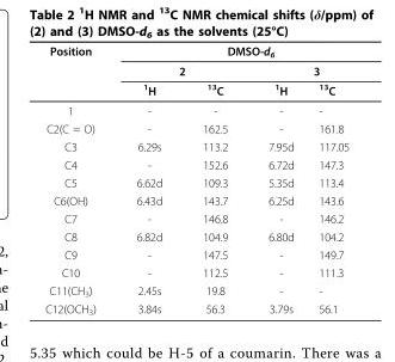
<table><thead><tr><td rowspan="3">Position</td><td colspan="4">DMSO-d<sub>6</sub></td></tr><tr><td colspan="2">2</td><td colspan="2">3</td></tr><tr><td><sup>1</sup>H</td><td><sup>13</sup>C</td><td><sup>1</sup>H</td><td><sup>13</sup>C</td></tr></thead><tbody><tr><td>1</td><td>-</td><td>-</td><td>-</td><td>-</td></tr><tr><td>C2(C = O)</td><td>-</td><td>162.5</td><td>-</td><td>161.8</td></tr><tr><td>C3</td><td>6.29s</td><td>113.2</td><td>7.95d</td><td>117.05</td></tr><tr><td>C4</td><td>-</td><td>152.6</td><td>6.72d</td><td>147.3</td></tr><tr><td>C5</td><td>6.62d</td><td>109.3</td><td>5.35d</td><td>113.4</td></tr><tr><td>C6(OH)</td><td>6.43d</td><td>143.7</td><td>6.25d</td><td>143.6</td></tr><tr><td>C7</td><td>-</td><td>146.8</td><td>-</td><td>146.2</td></tr><tr><td>C8</td><td>6.82d</td><td>104.9</td><td>6.80d</td><td>104.2</td></tr><tr><td>C9</td><td>-</td><td>147.5</td><td>-</td><td>149.7</td></tr><tr><td>C10</td><td>-</td><td>112.5</td><td>-</td><td>111.3</td></tr><tr><td>C11(CH<sub>3</sub>)</td><td>2.45s</td><td>19.8</td><td>-</td><td>-</td></tr><tr><td>C12(OCH<sub>3</sub>)</td><td>3.84s</td><td>56.3</td><td>3.79s</td><td>56.1</td></tr></tbody></table>